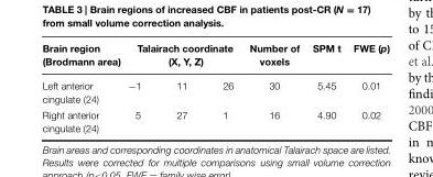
<table><thead><tr><td rowspan="2">Brain region (Brodmann area) Left anterior cingulate (24)</td><td colspan="3">Talairach coordinate (X, Y, Z)</td><td rowspan="2">Number of voxels 30</td><td rowspan="2">SPM t 5.45</td><td rowspan="2">FWE (p) 0.01</td></tr><tr><td>−1</td><td>11</td><td>26</td></tr></thead><tbody><tr><td>Right anterior cingulate (24)</td><td>5</td><td>27</td><td>1</td><td>16</td><td>4.90</td><td>0.02</td></tr></tbody></table>